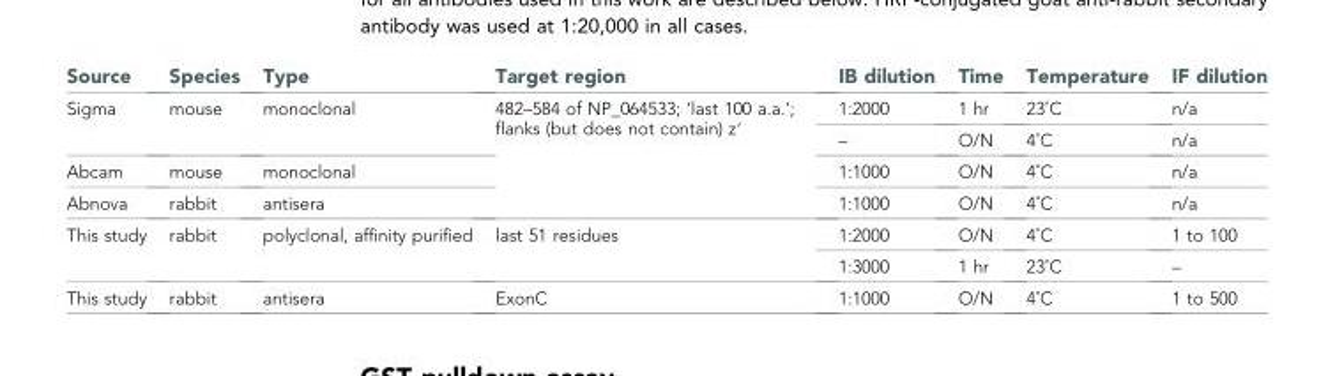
<table><thead><tr><td>Source</td><td>Species</td><td>Type</td><td>Target region</td><td>IB dilution</td><td>Time</td><td>Temperature</td><td>IF dilution</td></tr></thead><tbody><tr><td rowspan="2">Sigma</td><td rowspan="2">mouse</td><td rowspan="2">monoclonal</td><td rowspan="4">482–584 of NP_064533; ‘last 100 a.a.’; flanks (but does not contain) z′</td><td>1:2000</td><td>1 hr</td><td>23˚C</td><td>n/a</td></tr><tr><td>–</td><td>O/N</td><td>4˚C</td><td>n/a</td></tr><tr><td>Abcam</td><td>mouse</td><td>monoclonal</td><td>1:1000</td><td>O/N</td><td>4˚C</td><td>n/a</td></tr><tr><td>Abnova</td><td>rabbit</td><td>antisera</td><td>1:1000</td><td>O/N</td><td>4˚C</td><td>n/a</td></tr><tr><td rowspan="2">This study</td><td rowspan="2">rabbit</td><td rowspan="2">polyclonal, affinity purified</td><td rowspan="2">last 51 residues</td><td>1:2000</td><td>O/N</td><td>4˚C</td><td>1 to 100</td></tr><tr><td>1:3000</td><td>1 hr</td><td>23˚C</td><td>–</td></tr><tr><td>This study</td><td>rabbit</td><td>antisera</td><td>ExonC</td><td>1:1000</td><td>O/N</td><td>4˚C</td><td>1 to 500</td></tr></tbody></table>